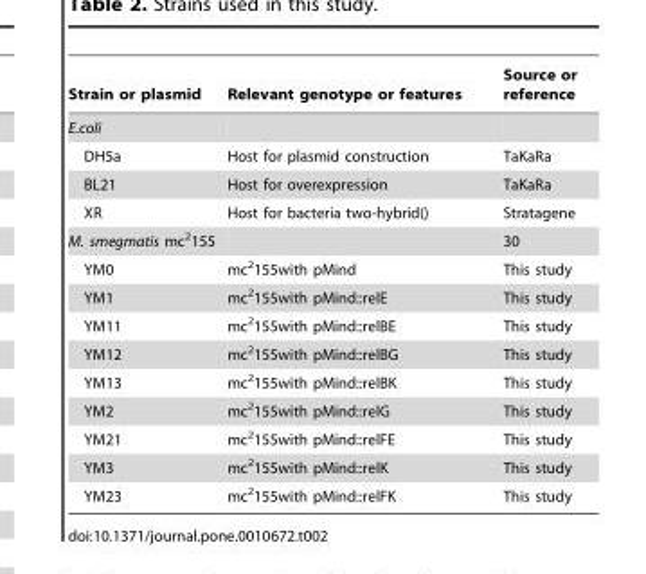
<table><thead><tr><td>Strain or plasmid</td><td>Relevant genotype or features</td><td>Source or reference</td></tr></thead><tbody><tr><td colspan="3">E.coli</td></tr><tr><td>DH5a</td><td>Host for plasmid construction</td><td>TaKaRa</td></tr><tr><td>BL21</td><td>Host for overexpression</td><td>TaKaRa</td></tr><tr><td>XR</td><td>Host for bacteria two-hybrid()</td><td>Stratagene</td></tr><tr><td>M. smegmatis mc<sup>2</sup>155</td><td></td><td>30</td></tr><tr><td>YM0</td><td>mc<sup>2</sup>155with pMind</td><td>This study</td></tr><tr><td>YM1</td><td>mc<sup>2</sup>155with pMind::relE</td><td>This study</td></tr><tr><td>YM11</td><td>mc<sup>2</sup>155with pMind::relBE</td><td>This study</td></tr><tr><td>YM12</td><td>mc<sup>2</sup>155with pMind::relBG</td><td>This study</td></tr><tr><td>YM13</td><td>mc<sup>2</sup>155with pMind::relBK</td><td>This study</td></tr><tr><td>YM2</td><td>mc<sup>2</sup>155with pMind::relG</td><td>This study</td></tr><tr><td>YM21</td><td>mc<sup>2</sup>155with pMind::relFE</td><td>This study</td></tr><tr><td>YM3</td><td>mc<sup>2</sup>155with pMind::relK</td><td>This study</td></tr><tr><td>YM23</td><td>mc<sup>2</sup>155with pMind::relFK</td><td>This study</td></tr></tbody></table>